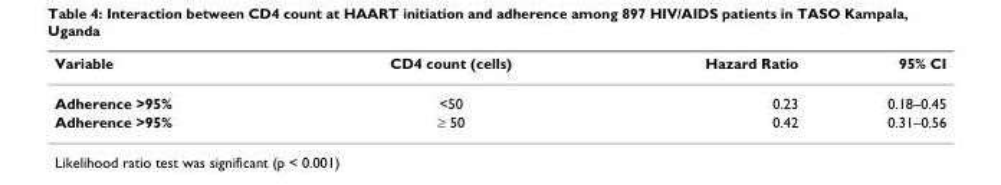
<table><thead><tr><td>Variable</td><td>CD4 count (cells)</td><td>Hazard Ratio</td><td>95% CI</td></tr></thead><tbody><tr><td>Adherence &gt;95%</td><td>&lt;50</td><td>0.23</td><td>0.18–0.45</td></tr><tr><td>Adherence &gt;95%</td><td>≥ 50</td><td>0.42</td><td>0.31–0.56</td></tr></tbody></table>